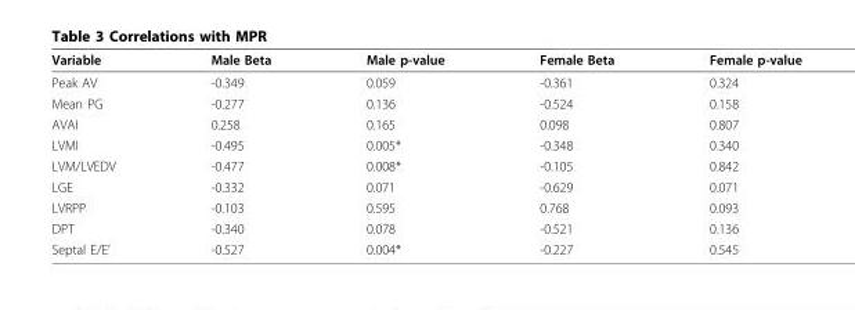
<table><thead><tr><td>Variable</td><td>Male Beta</td><td>Male p-value</td><td>Female Beta</td><td>Female p-value</td></tr></thead><tbody><tr><td>Peak AV</td><td>-0.349</td><td>0.059</td><td>-0.361</td><td>0.324</td></tr><tr><td>Mean PG</td><td>-0.277</td><td>0.136</td><td>-0.524</td><td>0.158</td></tr><tr><td>AVAI</td><td>0.258</td><td>0.165</td><td>0.098</td><td>0.807</td></tr><tr><td>LVMI</td><td>-0.495</td><td>0.005*</td><td>-0.348</td><td>0.340</td></tr><tr><td>LVM/LVEDV</td><td>-0.477</td><td>0.008*</td><td>-0.105</td><td>0.842</td></tr><tr><td>LGE</td><td>-0.332</td><td>0.071</td><td>-0.629</td><td>0.071</td></tr><tr><td>LVRPP</td><td>-0.103</td><td>0.595</td><td>0.768</td><td>0.093</td></tr><tr><td>DPT</td><td>-0.340</td><td>0.078</td><td>-0.521</td><td>0.136</td></tr><tr><td>Septal E/E’</td><td>-0.527</td><td>0.004*</td><td>-0.227</td><td>0.545</td></tr></tbody></table>